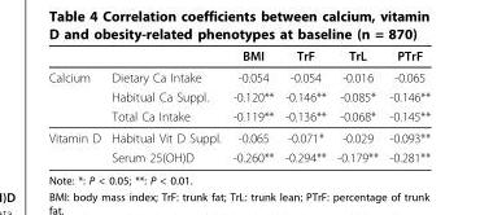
<table><thead><tr><td></td><td></td><td>BMI</td><td>TrF</td><td>TrL</td><td>PTrF</td></tr></thead><tbody><tr><td rowspan="3">Calcium</td><td>Dietary Ca Intake</td><td>-0.054</td><td>-0.054</td><td>-0.016</td><td>-0.065</td></tr><tr><td>Habitual Ca Suppl.</td><td>-0.120**</td><td>-0.146**</td><td>-0.085*</td><td>-0.146**</td></tr><tr><td>Total Ca Intake</td><td>-0.119**</td><td>-0.136**</td><td>-0.068*</td><td>-0.145**</td></tr><tr><td rowspan="2">Vitamin D</td><td>Habitual Vit D Suppl.</td><td>-0.065</td><td>-0.071*</td><td>-0.029</td><td>-0.093**</td></tr><tr><td>Serum 25(OH)D</td><td>-0.260**</td><td>-0.294**</td><td>-0.179**</td><td>-0.281**</td></tr></tbody></table>